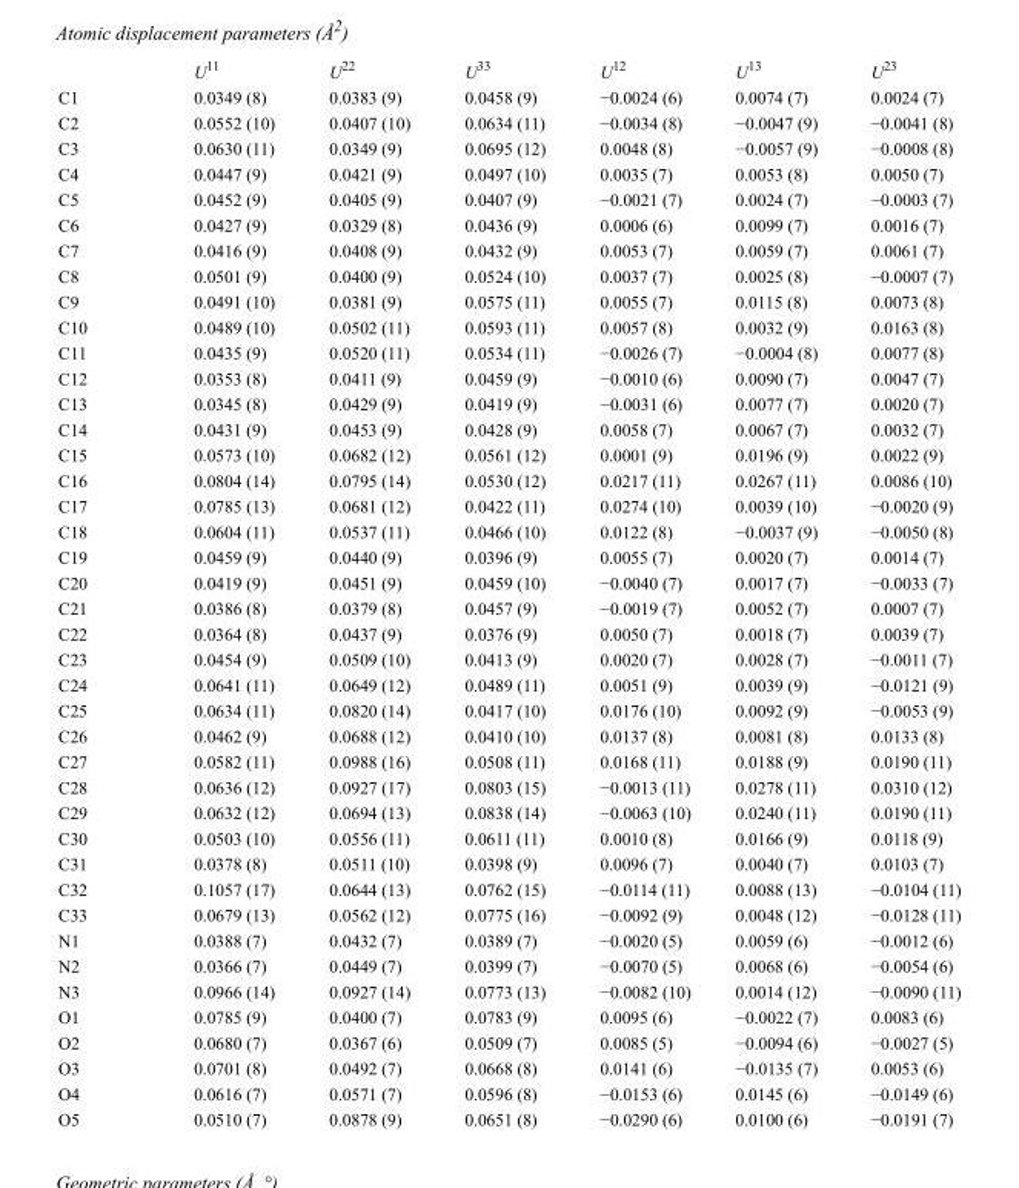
<table><thead><tr><td></td><td>U<sup>11</sup></td><td>U<sup>22</sup></td><td>U<sup>33</sup></td><td>U<sup>12</sup></td><td>U<sup>13</sup></td><td>U<sup>23</sup></td></tr></thead><tbody><tr><td>C1</td><td>0.0349 (8)</td><td>0.0383 (9)</td><td>0.0458 (9)</td><td>−0.0024 (6)</td><td>0.0074 (7)</td><td>0.0024 (7)</td></tr><tr><td>C2</td><td>0.0552 (10)</td><td>0.0407 (10)</td><td>0.0634 (11)</td><td>−0.0034 (8)</td><td>−0.0047 (9)</td><td>−0.0041 (8)</td></tr><tr><td>C3</td><td>0.0630 (11)</td><td>0.0349 (9)</td><td>0.0695 (12)</td><td>0.0048 (8)</td><td>−0.0057 (9)</td><td>−0.0008 (8)</td></tr><tr><td>C4</td><td>0.0447 (9)</td><td>0.0421 (9)</td><td>0.0497 (10)</td><td>0.0035 (7)</td><td>0.0053 (8)</td><td>0.0050 (7)</td></tr><tr><td>C5</td><td>0.0452 (9)</td><td>0.0405 (9)</td><td>0.0407 (9)</td><td>−0.0021 (7)</td><td>0.0024 (7)</td><td>−0.0003 (7)</td></tr><tr><td>C6</td><td>0.0427 (9)</td><td>0.0329 (8)</td><td>0.0436 (9)</td><td>0.0006 (6)</td><td>0.0099 (7)</td><td>0.0016 (7)</td></tr><tr><td>C7</td><td>0.0416 (9)</td><td>0.0408 (9)</td><td>0.0432 (9)</td><td>0.0053 (7)</td><td>0.0059 (7)</td><td>0.0061 (7)</td></tr><tr><td>C8</td><td>0.0501 (9)</td><td>0.0400 (9)</td><td>0.0524 (10)</td><td>0.0037 (7)</td><td>0.0025 (8)</td><td>−0.0007 (7)</td></tr><tr><td>C9</td><td>0.0491 (10)</td><td>0.0381 (9)</td><td>0.0575 (11)</td><td>0.0055 (7)</td><td>0.0115 (8)</td><td>0.0073 (8)</td></tr><tr><td>C10</td><td>0.0489 (10)</td><td>0.0502 (11)</td><td>0.0593 (11)</td><td>0.0057 (8)</td><td>0.0032 (9)</td><td>0.0163 (8)</td></tr><tr><td>C11</td><td>0.0435 (9)</td><td>0.0520 (11)</td><td>0.0534 (11)</td><td>−0.0026 (7)</td><td>−0.0004 (8)</td><td>0.0077 (8)</td></tr><tr><td>C12</td><td>0.0353 (8)</td><td>0.0411 (9)</td><td>0.0459 (9)</td><td>−0.0010 (6)</td><td>0.0090 (7)</td><td>0.0047 (7)</td></tr><tr><td>C13</td><td>0.0345 (8)</td><td>0.0429 (9)</td><td>0.0419 (9)</td><td>−0.0031 (6)</td><td>0.0077 (7)</td><td>0.0020 (7)</td></tr><tr><td>C14</td><td>0.0431 (9)</td><td>0.0453 (9)</td><td>0.0428 (9)</td><td>0.0058 (7)</td><td>0.0067 (7)</td><td>0.0032 (7)</td></tr><tr><td>C15</td><td>0.0573 (10)</td><td>0.0682 (12)</td><td>0.0561 (12)</td><td>0.0001 (9)</td><td>0.0196 (9)</td><td>0.0022 (9)</td></tr><tr><td>C16</td><td>0.0804 (14)</td><td>0.0795 (14)</td><td>0.0530 (12)</td><td>0.0217 (11)</td><td>0.0267 (11)</td><td>0.0086 (10)</td></tr><tr><td>C17</td><td>0.0785 (13)</td><td>0.0681 (12)</td><td>0.0422 (11)</td><td>0.0274 (10)</td><td>0.0039 (10)</td><td>−0.0020 (9)</td></tr><tr><td>C18</td><td>0.0604 (11)</td><td>0.0537 (11)</td><td>0.0466 (10)</td><td>0.0122 (8)</td><td>−0.0037 (9)</td><td>−0.0050 (8)</td></tr><tr><td>C19</td><td>0.0459 (9)</td><td>0.0440 (9)</td><td>0.0396 (9)</td><td>0.0055 (7)</td><td>0.0020 (7)</td><td>0.0014 (7)</td></tr><tr><td>C20</td><td>0.0419 (9)</td><td>0.0451 (9)</td><td>0.0459 (10)</td><td>−0.0040 (7)</td><td>0.0017 (7)</td><td>−0.0033 (7)</td></tr><tr><td>C21</td><td>0.0386 (8)</td><td>0.0379 (8)</td><td>0.0457 (9)</td><td>−0.0019 (7)</td><td>0.0052 (7)</td><td>0.0007 (7)</td></tr><tr><td>C22</td><td>0.0364 (8)</td><td>0.0437 (9)</td><td>0.0376 (9)</td><td>0.0050 (7)</td><td>0.0018 (7)</td><td>0.0039 (7)</td></tr><tr><td>C23</td><td>0.0454 (9)</td><td>0.0509 (10)</td><td>0.0413 (9)</td><td>0.0020 (7)</td><td>0.0028 (7)</td><td>−0.0011 (7)</td></tr><tr><td>C24</td><td>0.0641 (11)</td><td>0.0649 (12)</td><td>0.0489 (11)</td><td>0.0051 (9)</td><td>0.0039 (9)</td><td>−0.0121 (9)</td></tr><tr><td>C25</td><td>0.0634 (11)</td><td>0.0820 (14)</td><td>0.0417 (10)</td><td>0.0176 (10)</td><td>0.0092 (9)</td><td>−0.0053 (9)</td></tr><tr><td>C26</td><td>0.0462 (9)</td><td>0.0688 (12)</td><td>0.0410 (10)</td><td>0.0137 (8)</td><td>0.0081 (8)</td><td>0.0133 (8)</td></tr><tr><td>C27</td><td>0.0582 (11)</td><td>0.0988 (16)</td><td>0.0508 (11)</td><td>0.0168 (11)</td><td>0.0188 (9)</td><td>0.0190 (11)</td></tr><tr><td>C28</td><td>0.0636 (12)</td><td>0.0927 (17)</td><td>0.0803 (15)</td><td>−0.0013 (11)</td><td>0.0278 (11)</td><td>0.0310 (12)</td></tr><tr><td>C29</td><td>0.0632 (12)</td><td>0.0694 (13)</td><td>0.0838 (14)</td><td>−0.0063 (10)</td><td>0.0240 (11)</td><td>0.0190 (11)</td></tr><tr><td>C30</td><td>0.0503 (10)</td><td>0.0556 (11)</td><td>0.0611 (11)</td><td>0.0010 (8)</td><td>0.0166 (9)</td><td>0.0118 (9)</td></tr><tr><td>C31</td><td>0.0378 (8)</td><td>0.0511 (10)</td><td>0.0398 (9)</td><td>0.0096 (7)</td><td>0.0040 (7)</td><td>0.0103 (7)</td></tr><tr><td>C32</td><td>0.1057 (17)</td><td>0.0644 (13)</td><td>0.0762 (15)</td><td>−0.0114 (11)</td><td>0.0088 (13)</td><td>−0.0104 (11)</td></tr><tr><td>C33</td><td>0.0679 (13)</td><td>0.0562 (12)</td><td>0.0775 (16)</td><td>−0.0092 (9)</td><td>0.0048 (12)</td><td>−0.0128 (11)</td></tr><tr><td>N1</td><td>0.0388 (7)</td><td>0.0432 (7)</td><td>0.0389 (7)</td><td>−0.0020 (5)</td><td>0.0059 (6)</td><td>−0.0012 (6)</td></tr><tr><td>N2</td><td>0.0366 (7)</td><td>0.0449 (7)</td><td>0.0399 (7)</td><td>−0.0070 (5)</td><td>0.0068 (6)</td><td>−0.0054 (6)</td></tr><tr><td>N3</td><td>0.0966 (14)</td><td>0.0927 (14)</td><td>0.0773 (13)</td><td>−0.0082 (10)</td><td>0.0014 (12)</td><td>−0.0090 (11)</td></tr><tr><td>O1</td><td>0.0785 (9)</td><td>0.0400 (7)</td><td>0.0783 (9)</td><td>0.0095 (6)</td><td>−0.0022 (7)</td><td>0.0083 (6)</td></tr><tr><td>O2</td><td>0.0680 (7)</td><td>0.0367 (6)</td><td>0.0509 (7)</td><td>0.0085 (5)</td><td>−0.0094 (6)</td><td>−0.0027 (5)</td></tr><tr><td>O3</td><td>0.0701 (8)</td><td>0.0492 (7)</td><td>0.0668 (8)</td><td>0.0141 (6)</td><td>−0.0135 (7)</td><td>0.0053 (6)</td></tr><tr><td>O4</td><td>0.0616 (7)</td><td>0.0571 (7)</td><td>0.0596 (8)</td><td>−0.0153 (6)</td><td>0.0145 (6)</td><td>−0.0149 (6)</td></tr><tr><td>O5</td><td>0.0510 (7)</td><td>0.0878 (9)</td><td>0.0651 (8)</td><td>−0.0290 (6)</td><td>0.0100 (6)</td><td>−0.0191 (7)</td></tr></tbody></table>